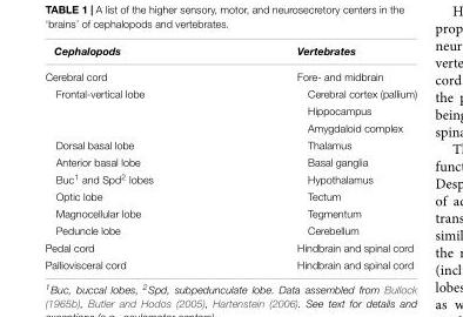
<table><thead><tr><td>Cephalopods</td><td>Vertebrates</td></tr></thead><tbody><tr><td>Cerebral cord</td><td>Fore- and midbrain</td></tr><tr><td rowspan="3">Frontal-vertical lobe</td><td>Cerebral cortex (pallium)</td></tr><tr><td>Hippocampus</td></tr><tr><td>Amygdaloid complex</td></tr><tr><td>Dorsal basal lobe</td><td>Thalamus</td></tr><tr><td>Anterior basal lobe</td><td>Basal ganglia</td></tr><tr><td>Buc<sup>1</sup> and Spd<sup>2</sup> lobes</td><td>Hypothalamus</td></tr><tr><td>Optic lobe</td><td>Tectum</td></tr><tr><td>Magnocellular lobe</td><td>Tegmentum</td></tr><tr><td>Peduncle lobe</td><td>Cerebellum</td></tr><tr><td>Pedal cord</td><td>Hindbrain and spinal cord</td></tr><tr><td>Palliovisceral cord</td><td>Hindbrain and spinal cord</td></tr></tbody></table>